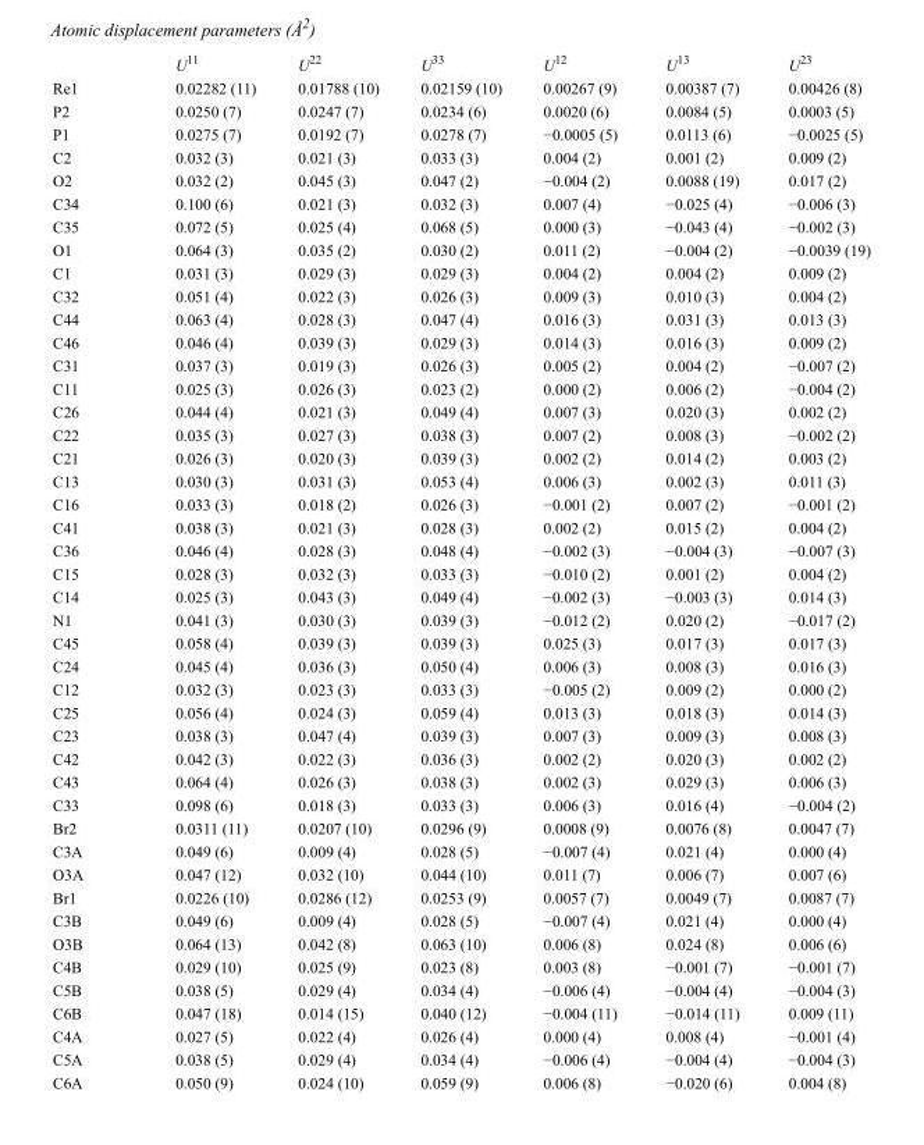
<table><thead><tr><td></td><td>U<sup>11</sup></td><td>U<sup>22</sup></td><td>U<sup>33</sup></td><td>U<sup>12</sup></td><td>U<sup>13</sup></td><td>U<sup>23</sup></td></tr></thead><tbody><tr><td>Re1</td><td>0.02282 (11)</td><td>0.01788 (10)</td><td>0.02159 (10)</td><td>0.00267 (9)</td><td>0.00387 (7)</td><td>0.00426 (8)</td></tr><tr><td>P2</td><td>0.0250 (7)</td><td>0.0247 (7)</td><td>0.0234 (6)</td><td>0.0020 (6)</td><td>0.0084 (5)</td><td>0.0003 (5)</td></tr><tr><td>P1</td><td>0.0275 (7)</td><td>0.0192 (7)</td><td>0.0278 (7)</td><td>−0.0005 (5)</td><td>0.0113 (6)</td><td>−0.0025 (5)</td></tr><tr><td>C2</td><td>0.032 (3)</td><td>0.021 (3)</td><td>0.033 (3)</td><td>0.004 (2)</td><td>0.001 (2)</td><td>0.009 (2)</td></tr><tr><td>O2</td><td>0.032 (2)</td><td>0.045 (3)</td><td>0.047 (2)</td><td>−0.004 (2)</td><td>0.0088 (19)</td><td>0.017 (2)</td></tr><tr><td>C34</td><td>0.100 (6)</td><td>0.021 (3)</td><td>0.032 (3)</td><td>0.007 (4)</td><td>−0.025 (4)</td><td>−0.006 (3)</td></tr><tr><td>C35</td><td>0.072 (5)</td><td>0.025 (4)</td><td>0.068 (5)</td><td>0.000 (3)</td><td>−0.043 (4)</td><td>−0.002 (3)</td></tr><tr><td>O1</td><td>0.064 (3)</td><td>0.035 (2)</td><td>0.030 (2)</td><td>0.011 (2)</td><td>−0.004 (2)</td><td>−0.0039 (19)</td></tr><tr><td>C1</td><td>0.031 (3)</td><td>0.029 (3)</td><td>0.029 (3)</td><td>0.004 (2)</td><td>0.004 (2)</td><td>0.009 (2)</td></tr><tr><td>C32</td><td>0.051 (4)</td><td>0.022 (3)</td><td>0.026 (3)</td><td>0.009 (3)</td><td>0.010 (3)</td><td>0.004 (2)</td></tr><tr><td>C44</td><td>0.063 (4)</td><td>0.028 (3)</td><td>0.047 (4)</td><td>0.016 (3)</td><td>0.031 (3)</td><td>0.013 (3)</td></tr><tr><td>C46</td><td>0.046 (4)</td><td>0.039 (3)</td><td>0.029 (3)</td><td>0.014 (3)</td><td>0.016 (3)</td><td>0.009 (2)</td></tr><tr><td>C31</td><td>0.037 (3)</td><td>0.019 (3)</td><td>0.026 (3)</td><td>0.005 (2)</td><td>0.004 (2)</td><td>−0.007 (2)</td></tr><tr><td>C11</td><td>0.025 (3)</td><td>0.026 (3)</td><td>0.023 (2)</td><td>0.000 (2)</td><td>0.006 (2)</td><td>−0.004 (2)</td></tr><tr><td>C26</td><td>0.044 (4)</td><td>0.021 (3)</td><td>0.049 (4)</td><td>0.007 (3)</td><td>0.020 (3)</td><td>0.002 (2)</td></tr><tr><td>C22</td><td>0.035 (3)</td><td>0.027 (3)</td><td>0.038 (3)</td><td>0.007 (2)</td><td>0.008 (3)</td><td>−0.002 (2)</td></tr><tr><td>C21</td><td>0.026 (3)</td><td>0.020 (3)</td><td>0.039 (3)</td><td>0.002 (2)</td><td>0.014 (2)</td><td>0.003 (2)</td></tr><tr><td>C13</td><td>0.030 (3)</td><td>0.031 (3)</td><td>0.053 (4)</td><td>0.006 (3)</td><td>0.002 (3)</td><td>0.011 (3)</td></tr><tr><td>C16</td><td>0.033 (3)</td><td>0.018 (2)</td><td>0.026 (3)</td><td>−0.001 (2)</td><td>0.007 (2)</td><td>−0.001 (2)</td></tr><tr><td>C41</td><td>0.038 (3)</td><td>0.021 (3)</td><td>0.028 (3)</td><td>0.002 (2)</td><td>0.015 (2)</td><td>0.004 (2)</td></tr><tr><td>C36</td><td>0.046 (4)</td><td>0.028 (3)</td><td>0.048 (4)</td><td>−0.002 (3)</td><td>−0.004 (3)</td><td>−0.007 (3)</td></tr><tr><td>C15</td><td>0.028 (3)</td><td>0.032 (3)</td><td>0.033 (3)</td><td>−0.010 (2)</td><td>0.001 (2)</td><td>0.004 (2)</td></tr><tr><td>C14</td><td>0.025 (3)</td><td>0.043 (3)</td><td>0.049 (4)</td><td>−0.002 (3)</td><td>−0.003 (3)</td><td>0.014 (3)</td></tr><tr><td>N1</td><td>0.041 (3)</td><td>0.030 (3)</td><td>0.039 (3)</td><td>−0.012 (2)</td><td>0.020 (2)</td><td>−0.017 (2)</td></tr><tr><td>C45</td><td>0.058 (4)</td><td>0.039 (3)</td><td>0.039 (3)</td><td>0.025 (3)</td><td>0.017 (3)</td><td>0.017 (3)</td></tr><tr><td>C24</td><td>0.045 (4)</td><td>0.036 (3)</td><td>0.050 (4)</td><td>0.006 (3)</td><td>0.008 (3)</td><td>0.016 (3)</td></tr><tr><td>C12</td><td>0.032 (3)</td><td>0.023 (3)</td><td>0.033 (3)</td><td>−0.005 (2)</td><td>0.009 (2)</td><td>0.000 (2)</td></tr><tr><td>C25</td><td>0.056 (4)</td><td>0.024 (3)</td><td>0.059 (4)</td><td>0.013 (3)</td><td>0.018 (3)</td><td>0.014 (3)</td></tr><tr><td>C23</td><td>0.038 (3)</td><td>0.047 (4)</td><td>0.039 (3)</td><td>0.007 (3)</td><td>0.009 (3)</td><td>0.008 (3)</td></tr><tr><td>C42</td><td>0.042 (3)</td><td>0.022 (3)</td><td>0.036 (3)</td><td>0.002 (2)</td><td>0.020 (3)</td><td>0.002 (2)</td></tr><tr><td>C43</td><td>0.064 (4)</td><td>0.026 (3)</td><td>0.038 (3)</td><td>0.002 (3)</td><td>0.029 (3)</td><td>0.006 (3)</td></tr><tr><td>C33</td><td>0.098 (6)</td><td>0.018 (3)</td><td>0.033 (3)</td><td>0.006 (3)</td><td>0.016 (4)</td><td>−0.004 (2)</td></tr><tr><td>Br2</td><td>0.0311 (11)</td><td>0.0207 (10)</td><td>0.0296 (9)</td><td>0.0008 (9)</td><td>0.0076 (8)</td><td>0.0047 (7)</td></tr><tr><td>C3A</td><td>0.049 (6)</td><td>0.009 (4)</td><td>0.028 (5)</td><td>−0.007 (4)</td><td>0.021 (4)</td><td>0.000 (4)</td></tr><tr><td>O3A</td><td>0.047 (12)</td><td>0.032 (10)</td><td>0.044 (10)</td><td>0.011 (7)</td><td>0.006 (7)</td><td>0.007 (6)</td></tr><tr><td>Br1</td><td>0.0226 (10)</td><td>0.0286 (12)</td><td>0.0253 (9)</td><td>0.0057 (7)</td><td>0.0049 (7)</td><td>0.0087 (7)</td></tr><tr><td>C3B</td><td>0.049 (6)</td><td>0.009 (4)</td><td>0.028 (5)</td><td>−0.007 (4)</td><td>0.021 (4)</td><td>0.000 (4)</td></tr><tr><td>O3B</td><td>0.064 (13)</td><td>0.042 (8)</td><td>0.063 (10)</td><td>0.006 (8)</td><td>0.024 (8)</td><td>0.006 (6)</td></tr><tr><td>C4B</td><td>0.029 (10)</td><td>0.025 (9)</td><td>0.023 (8)</td><td>0.003 (8)</td><td>−0.001 (7)</td><td>−0.001 (7)</td></tr><tr><td>C5B</td><td>0.038 (5)</td><td>0.029 (4)</td><td>0.034 (4)</td><td>−0.006 (4)</td><td>−0.004 (4)</td><td>−0.004 (3)</td></tr><tr><td>C6B</td><td>0.047 (18)</td><td>0.014 (15)</td><td>0.040 (12)</td><td>−0.004 (11)</td><td>−0.014 (11)</td><td>0.009 (11)</td></tr><tr><td>C4A</td><td>0.027 (5)</td><td>0.022 (4)</td><td>0.026 (4)</td><td>0.000 (4)</td><td>0.008 (4)</td><td>−0.001 (4)</td></tr><tr><td>C5A</td><td>0.038 (5)</td><td>0.029 (4)</td><td>0.034 (4)</td><td>−0.006 (4)</td><td>−0.004 (4)</td><td>−0.004 (3)</td></tr><tr><td>C6A</td><td>0.050 (9)</td><td>0.024 (10)</td><td>0.059 (9)</td><td>0.006 (8)</td><td>−0.020 (6)</td><td>0.004 (8)</td></tr></tbody></table>